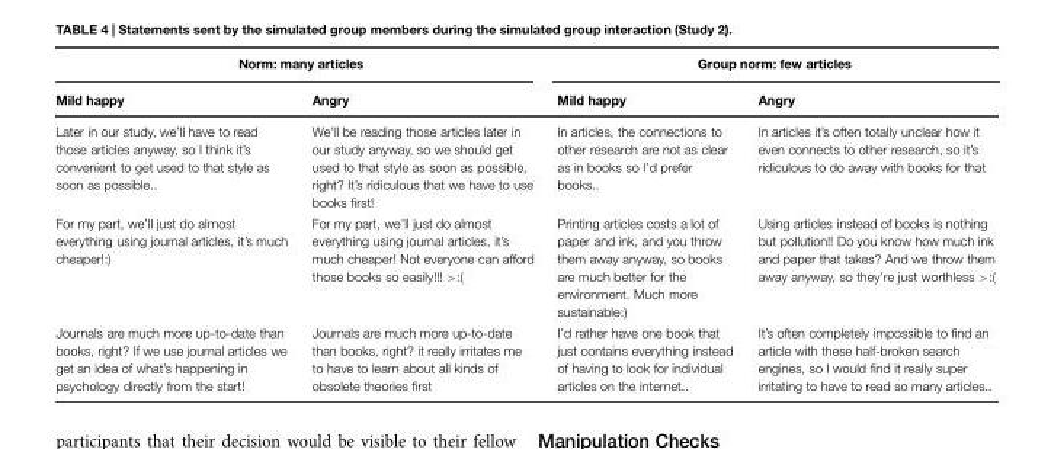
<table><thead><tr><td colspan="2">Norm: many articles</td><td colspan="2">Group norm: few articles</td></tr><tr><td>Mild happy</td><td>Angry</td><td>Mild happy</td><td>Angry</td></tr></thead><tbody><tr><td>Later in our study, we’ll have to read those articles anyway, so I think it’s convenient to get used to that style as soon as possible..</td><td>We’ll be reading those articles later in our study anyway, so we should get used to that style as soon as possible, right? It’s ridiculous that we have to use books first!</td><td>In articles, the connections to other research are not as clear as in books so I’d prefer books..</td><td>In articles it’s often totally unclear how it even connects to other research, so it’s ridiculous to do away with books for that</td></tr><tr><td>For my part, we’ll just do almost everything using journal articles, it’s much cheaper!:)</td><td>For my part, we’ll just do almost everything using journal articles, it’s much cheaper! Not everyone can afford those books so easily!!! &gt;:(</td><td>Printing articles costs a lot of paper and ink, and you throw them away anyway, so books are much better for the environment. Much more sustainable:)</td><td>Using articles instead of books is nothing but pollution!! Do you know how much ink and paper that takes? And we throw them away anyway, so they’re just worthless &gt;:(</td></tr><tr><td>Journals are much more up-to-date than books, right? If we use journal articles we get an idea of what’s happening in psychology directly from the start!</td><td>Journals are much more up-to-date than books, right? it really irritates me to have to learn about all kinds of obsolete theories first</td><td>I’d rather have one book that just contains everything instead of having to look for individual articles on the internet..</td><td>It’s often completely impossible to find an article with these half-broken search engines, so I would find it really super irritating to have to read so many articles..</td></tr></tbody></table>